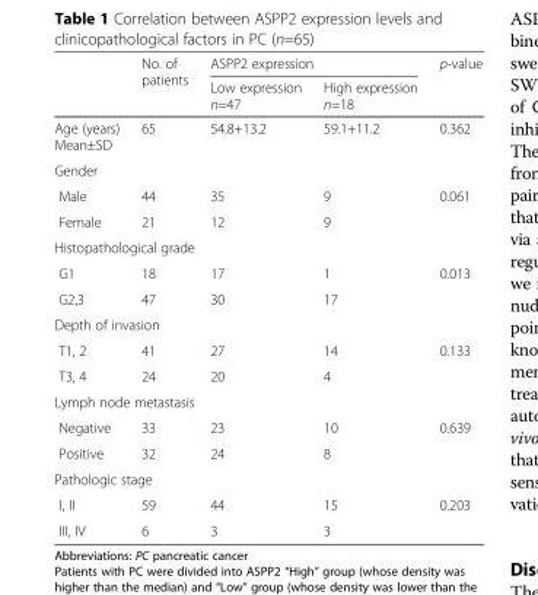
<table><thead><tr><td rowspan="2"></td><td rowspan="2">No. of patients</td><td colspan="2">ASPP2 expression</td><td rowspan="2">p-value</td></tr><tr><td>Low expression n=47</td><td>High expression n=18</td></tr></thead><tbody><tr><td>Age (years) Mean±SD</td><td>65</td><td>54.8+13.2</td><td>59.1+11.2</td><td>0.362</td></tr><tr><td colspan="5">Gender</td></tr><tr><td>Male</td><td>44</td><td>35</td><td>9</td><td rowspan="2">0.061</td></tr><tr><td>Female</td><td>21</td><td>12</td><td>9</td></tr><tr><td colspan="5">Histopathological grade</td></tr><tr><td>G1</td><td>18</td><td>17</td><td>1</td><td rowspan="2">0.013</td></tr><tr><td>G2,3</td><td>47</td><td>30</td><td>17</td></tr><tr><td colspan="5">Depth of invasion</td></tr><tr><td>T1, 2</td><td>41</td><td>27</td><td>14</td><td rowspan="2">0.133</td></tr><tr><td>T3, 4</td><td>24</td><td>20</td><td>4</td></tr><tr><td colspan="5">Lymph node metastasis</td></tr><tr><td>Negative</td><td>33</td><td>23</td><td>10</td><td rowspan="2">0.639</td></tr><tr><td>Positive</td><td>32</td><td>24</td><td>8</td></tr><tr><td colspan="5">Pathologic stage</td></tr><tr><td>I, II</td><td>59</td><td>44</td><td>15</td><td rowspan="2">0.203</td></tr><tr><td>III, IV</td><td>6</td><td>3</td><td>3</td></tr></tbody></table>